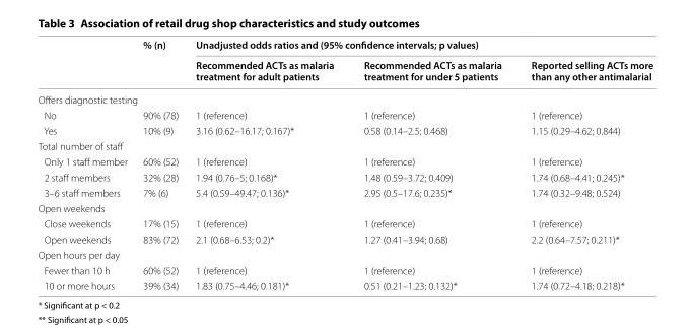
<table><thead><tr><td rowspan="2"></td><td rowspan="2">% (n)</td><td colspan="3">Unadjusted odds ratios and (95% confidence intervals; p values)</td></tr><tr><td>Recommended ACTs as malaria treatment for adult patients</td><td>Recommended ACTs as malaria treatment for under 5 patients</td><td>Reported selling ACTs more than any other antimalarial</td></tr></thead><tbody><tr><td colspan="5">Offers diagnostic testing</td></tr><tr><td>No</td><td>90% (78)</td><td>1 (reference)</td><td>1 (reference)</td><td>1 (reference)</td></tr><tr><td>Yes</td><td>10% (9)</td><td>3.16 (0.62–16.17; 0.167)*</td><td>0.58 (0.14–2.5; 0.468)</td><td>1.15 (0.29–4.62; 0.844)</td></tr><tr><td colspan="5">Total number of staff</td></tr><tr><td>Only 1 staff member</td><td>60% (52)</td><td>1 (reference)</td><td>1 (reference)</td><td>1 (reference)</td></tr><tr><td>2 staff members</td><td>32% (28)</td><td>1.94 (0.76–5; 0.168)*</td><td>1.48 (0.59–3.72; 0.409)</td><td>1.74 (0.68–4.41; 0.245)*</td></tr><tr><td>3–6 staff members</td><td>7% (6)</td><td>5.4 (0.59–49.47; 0.136)*</td><td>2.95 (0.5–17.6; 0.235)*</td><td>1.74 (0.32–9.48; 0.524)</td></tr><tr><td colspan="5">Open weekends</td></tr><tr><td>Close weekends</td><td>17% (15)</td><td>1 (reference)</td><td>1 (reference)</td><td>1 (reference)</td></tr><tr><td>Open weekends</td><td>83% (72)</td><td>2.1 (0.68–6.53; 0.2)*</td><td>1.27 (0.41–3.94; 0.68)</td><td>2.2 (0.64–7.57; 0.211)*</td></tr><tr><td colspan="5">Open hours per day</td></tr><tr><td>Fewer than 10 h</td><td>60% (52)</td><td>1 (reference)</td><td>1 (reference)</td><td>1 (reference)</td></tr><tr><td>10 or more hours</td><td>39% (34)</td><td>1.83 (0.75–4.46; 0.181)*</td><td>0.51 (0.21–1.23; 0.132)*</td><td>1.74 (0.72–4.18; 0.218)*</td></tr></tbody></table>